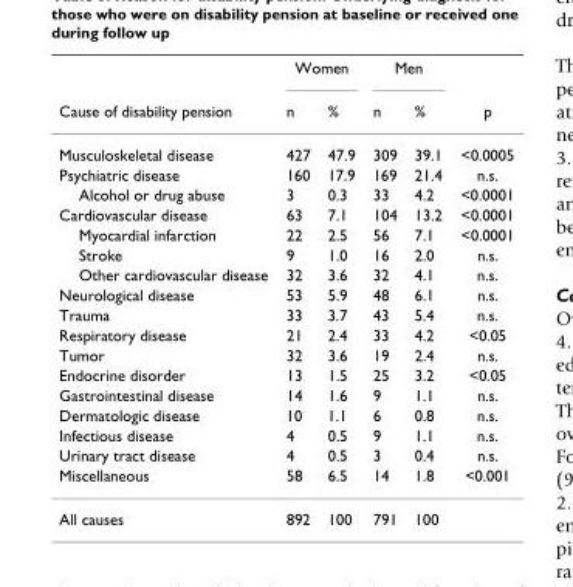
<table><thead><tr><td rowspan="2">Cause of disability pension</td><td colspan="2">Women</td><td colspan="2">Men</td><td rowspan="2">p</td></tr><tr><td>n</td><td>%</td><td>n</td><td>%</td></tr></thead><tbody><tr><td>Musculoskeletal disease</td><td>427</td><td>47.9</td><td>309</td><td>39.1</td><td>&lt;0.0005</td></tr><tr><td>Psychiatric disease</td><td>160</td><td>17.9</td><td>169</td><td>21.4</td><td>n.s.</td></tr><tr><td>Alcohol or drug abuse</td><td>3</td><td>0.3</td><td>33</td><td>4.2</td><td>&lt;0.0001</td></tr><tr><td>Cardiovascular disease</td><td>63</td><td>7.1</td><td>104</td><td>13.2</td><td>&lt;0.0001</td></tr><tr><td>Myocardial infarction</td><td>22</td><td>2.5</td><td>56</td><td>7.1</td><td>&lt;0.0001</td></tr><tr><td>Stroke</td><td>9</td><td>1.0</td><td>16</td><td>2.0</td><td>n.s.</td></tr><tr><td>Other cardiovascular disease</td><td>32</td><td>3.6</td><td>32</td><td>4.1</td><td>n.s.</td></tr><tr><td>Neurological disease</td><td>53</td><td>5.9</td><td>48</td><td>6.1</td><td>n.s.</td></tr><tr><td>Trauma</td><td>33</td><td>3.7</td><td>43</td><td>5.4</td><td>n.s.</td></tr><tr><td>Respiratory disease</td><td>21</td><td>2.4</td><td>33</td><td>4.2</td><td>&lt;0.05</td></tr><tr><td>Tumor</td><td>32</td><td>3.6</td><td>19</td><td>2.4</td><td>n.s.</td></tr><tr><td>Endocrine disorder</td><td>13</td><td>1.5</td><td>25</td><td>3.2</td><td>&lt;0.05</td></tr><tr><td>Gastrointestinal disease</td><td>14</td><td>1.6</td><td>9</td><td>1.1</td><td>n.s.</td></tr><tr><td>Dermatologic disease</td><td>10</td><td>1.1</td><td>6</td><td>0.8</td><td>n.s.</td></tr><tr><td>Infectious disease</td><td>4</td><td>0.5</td><td>9</td><td>1.1</td><td>n.s.</td></tr><tr><td>Urinary tract disease</td><td>4</td><td>0.5</td><td>3</td><td>0.4</td><td>n.s.</td></tr><tr><td>Miscellaneous</td><td>58</td><td>6.5</td><td>14</td><td>1.8</td><td>&lt;0.001</td></tr><tr><td>All causes</td><td>892</td><td>100</td><td>791</td><td>100</td><td></td></tr></tbody></table>